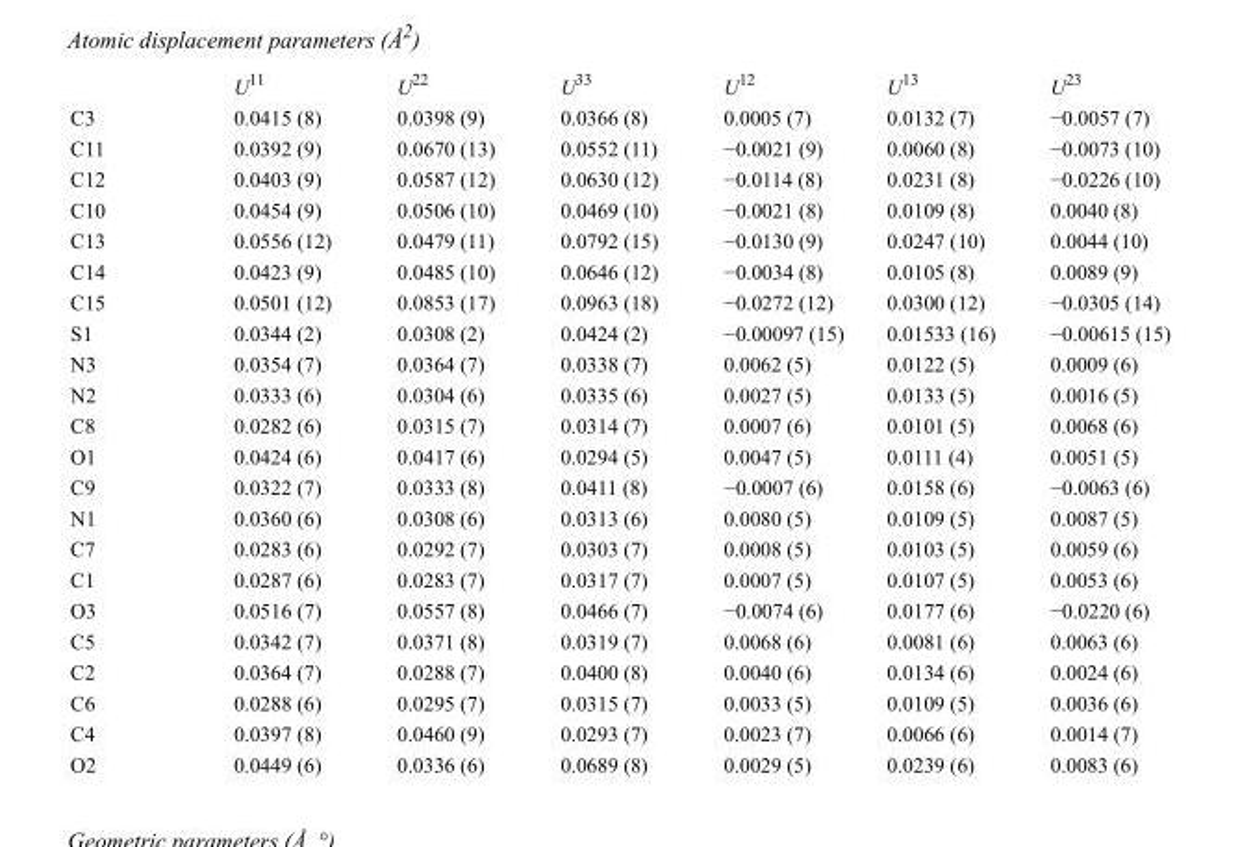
<table><thead><tr><td></td><td>U<sup>11</sup></td><td>U<sup>22</sup></td><td>U<sup>33</sup></td><td>U<sup>12</sup></td><td>U<sup>13</sup></td><td>U<sup>23</sup></td></tr></thead><tbody><tr><td>C3</td><td>0.0415 (8)</td><td>0.0398 (9)</td><td>0.0366 (8)</td><td>0.0005 (7)</td><td>0.0132 (7)</td><td>−0.0057 (7)</td></tr><tr><td>C11</td><td>0.0392 (9)</td><td>0.0670 (13)</td><td>0.0552 (11)</td><td>−0.0021 (9)</td><td>0.0060 (8)</td><td>−0.0073 (10)</td></tr><tr><td>C12</td><td>0.0403 (9)</td><td>0.0587 (12)</td><td>0.0630 (12)</td><td>−0.0114 (8)</td><td>0.0231 (8)</td><td>−0.0226 (10)</td></tr><tr><td>C10</td><td>0.0454 (9)</td><td>0.0506 (10)</td><td>0.0469 (10)</td><td>−0.0021 (8)</td><td>0.0109 (8)</td><td>0.0040 (8)</td></tr><tr><td>C13</td><td>0.0556 (12)</td><td>0.0479 (11)</td><td>0.0792 (15)</td><td>−0.0130 (9)</td><td>0.0247 (10)</td><td>0.0044 (10)</td></tr><tr><td>C14</td><td>0.0423 (9)</td><td>0.0485 (10)</td><td>0.0646 (12)</td><td>−0.0034 (8)</td><td>0.0105 (8)</td><td>0.0089 (9)</td></tr><tr><td>C15</td><td>0.0501 (12)</td><td>0.0853 (17)</td><td>0.0963 (18)</td><td>−0.0272 (12)</td><td>0.0300 (12)</td><td>−0.0305 (14)</td></tr><tr><td>S1</td><td>0.0344 (2)</td><td>0.0308 (2)</td><td>0.0424 (2)</td><td>−0.00097 (15)</td><td>0.01533 (16)</td><td>−0.00615 (15)</td></tr><tr><td>N3</td><td>0.0354 (7)</td><td>0.0364 (7)</td><td>0.0338 (7)</td><td>0.0062 (5)</td><td>0.0122 (5)</td><td>0.0009 (6)</td></tr><tr><td>N2</td><td>0.0333 (6)</td><td>0.0304 (6)</td><td>0.0335 (6)</td><td>0.0027 (5)</td><td>0.0133 (5)</td><td>0.0016 (5)</td></tr><tr><td>C8</td><td>0.0282 (6)</td><td>0.0315 (7)</td><td>0.0314 (7)</td><td>0.0007 (6)</td><td>0.0101 (5)</td><td>0.0068 (6)</td></tr><tr><td>O1</td><td>0.0424 (6)</td><td>0.0417 (6)</td><td>0.0294 (5)</td><td>0.0047 (5)</td><td>0.0111 (4)</td><td>0.0051 (5)</td></tr><tr><td>C9</td><td>0.0322 (7)</td><td>0.0333 (8)</td><td>0.0411 (8)</td><td>−0.0007 (6)</td><td>0.0158 (6)</td><td>−0.0063 (6)</td></tr><tr><td>N1</td><td>0.0360 (6)</td><td>0.0308 (6)</td><td>0.0313 (6)</td><td>0.0080 (5)</td><td>0.0109 (5)</td><td>0.0087 (5)</td></tr><tr><td>C7</td><td>0.0283 (6)</td><td>0.0292 (7)</td><td>0.0303 (7)</td><td>0.0008 (5)</td><td>0.0103 (5)</td><td>0.0059 (6)</td></tr><tr><td>C1</td><td>0.0287 (6)</td><td>0.0283 (7)</td><td>0.0317 (7)</td><td>0.0007 (5)</td><td>0.0107 (5)</td><td>0.0053 (6)</td></tr><tr><td>O3</td><td>0.0516 (7)</td><td>0.0557 (8)</td><td>0.0466 (7)</td><td>−0.0074 (6)</td><td>0.0177 (6)</td><td>−0.0220 (6)</td></tr><tr><td>C5</td><td>0.0342 (7)</td><td>0.0371 (8)</td><td>0.0319 (7)</td><td>0.0068 (6)</td><td>0.0081 (6)</td><td>0.0063 (6)</td></tr><tr><td>C2</td><td>0.0364 (7)</td><td>0.0288 (7)</td><td>0.0400 (8)</td><td>0.0040 (6)</td><td>0.0134 (6)</td><td>0.0024 (6)</td></tr><tr><td>C6</td><td>0.0288 (6)</td><td>0.0295 (7)</td><td>0.0315 (7)</td><td>0.0033 (5)</td><td>0.0109 (5)</td><td>0.0036 (6)</td></tr><tr><td>C4</td><td>0.0397 (8)</td><td>0.0460 (9)</td><td>0.0293 (7)</td><td>0.0023 (7)</td><td>0.0066 (6)</td><td>0.0014 (7)</td></tr><tr><td>O2</td><td>0.0449 (6)</td><td>0.0336 (6)</td><td>0.0689 (8)</td><td>0.0029 (5)</td><td>0.0239 (6)</td><td>0.0083 (6)</td></tr></tbody></table>